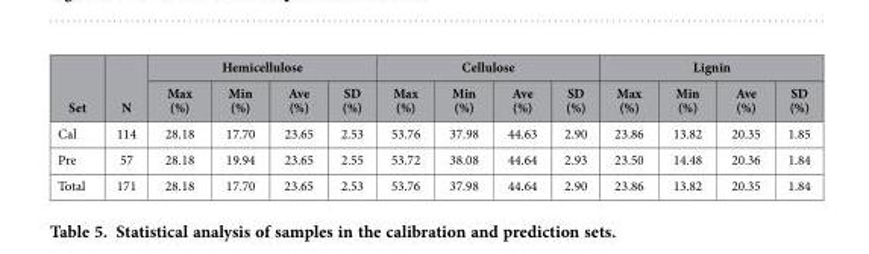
<table><thead><tr><td rowspan="2">Set</td><td rowspan="2">N</td><td colspan="4">Hemicellulose</td><td colspan="4">Cellulose</td><td colspan="4">Lignin</td></tr><tr><td>Max (%)</td><td>Min (%)</td><td>Ave (%)</td><td>SD (%)</td><td>Max (%)</td><td>Min (%)</td><td>Ave (%)</td><td>SD (%)</td><td>Max (%)</td><td>Min (%)</td><td>Ave (%)</td><td>SD (%)</td></tr></thead><tbody><tr><td>Cal</td><td>114</td><td>28.18</td><td>17.70</td><td>23.65</td><td>2.53</td><td>53.76</td><td>37.98</td><td>44.63</td><td>2.90</td><td>23.86</td><td>13.82</td><td>20.35</td><td>1.85</td></tr><tr><td>Pre</td><td>57</td><td>28.18</td><td>19.94</td><td>23.65</td><td>2.55</td><td>53.72</td><td>38.08</td><td>44.64</td><td>2.93</td><td>23.50</td><td>14.48</td><td>20.36</td><td>1.84</td></tr><tr><td>Total</td><td>171</td><td>28.18</td><td>17.70</td><td>23.65</td><td>2.53</td><td>53.76</td><td>37.98</td><td>44.64</td><td>2.90</td><td>23.86</td><td>13.82</td><td>20.35</td><td>1.84</td></tr></tbody></table>